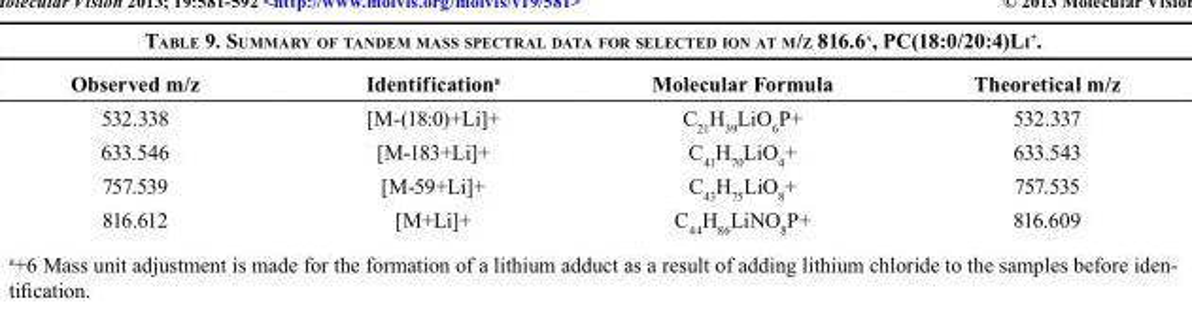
<table><thead><tr><td>Observed m/z</td><td>Identification<sup>a</sup></td><td>Molecular Formula</td><td>Theoretical m/z</td></tr></thead><tbody><tr><td>532.338</td><td>[M-(18:0)+Li]+</td><td>C<sub>21</sub>H<sub>39</sub>LiO<sub>6</sub>P+</td><td>532.337</td></tr><tr><td>633.546</td><td>[M-183+Li]+</td><td>C<sub>41</sub>H<sub>70</sub>LiO<sub>4</sub>+</td><td>633.543</td></tr><tr><td>757.539</td><td>[M-59+Li]+</td><td>C<sub>43</sub>H<sub>75</sub>LiO<sub>8</sub>+</td><td>757.535</td></tr><tr><td>816.612</td><td>[M+Li]+</td><td>C<sub>44</sub>H<sub>86</sub>LiNO<sub>8</sub>P+</td><td>816.609</td></tr></tbody></table>